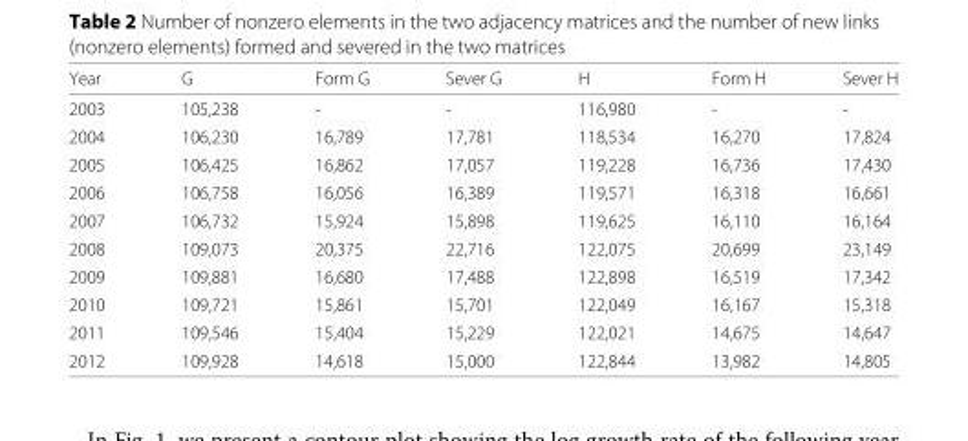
<table><thead><tr><td>Year</td><td>G</td><td>Form G</td><td>Sever G</td><td>H</td><td>Form H</td><td>Sever H</td></tr></thead><tbody><tr><td>2003</td><td>105,238</td><td>-</td><td>-</td><td>116,980</td><td>-</td><td>-</td></tr><tr><td>2004</td><td>106,230</td><td>16,789</td><td>17,781</td><td>118,534</td><td>16,270</td><td>17,824</td></tr><tr><td>2005</td><td>106,425</td><td>16,862</td><td>17,057</td><td>119,228</td><td>16,736</td><td>17,430</td></tr><tr><td>2006</td><td>106,758</td><td>16,056</td><td>16,389</td><td>119,571</td><td>16,318</td><td>16,661</td></tr><tr><td>2007</td><td>106,732</td><td>15,924</td><td>15,898</td><td>119,625</td><td>16,110</td><td>16,164</td></tr><tr><td>2008</td><td>109,073</td><td>20,375</td><td>22,716</td><td>122,075</td><td>20,699</td><td>23,149</td></tr><tr><td>2009</td><td>109,881</td><td>16,680</td><td>17,488</td><td>122,898</td><td>16,519</td><td>17,342</td></tr><tr><td>2010</td><td>109,721</td><td>15,861</td><td>15,701</td><td>122,049</td><td>16,167</td><td>15,318</td></tr><tr><td>2011</td><td>109,546</td><td>15,404</td><td>15,229</td><td>122,021</td><td>14,675</td><td>14,647</td></tr><tr><td>2012</td><td>109,928</td><td>14,618</td><td>15,000</td><td>122,844</td><td>13,982</td><td>14,805</td></tr></tbody></table>